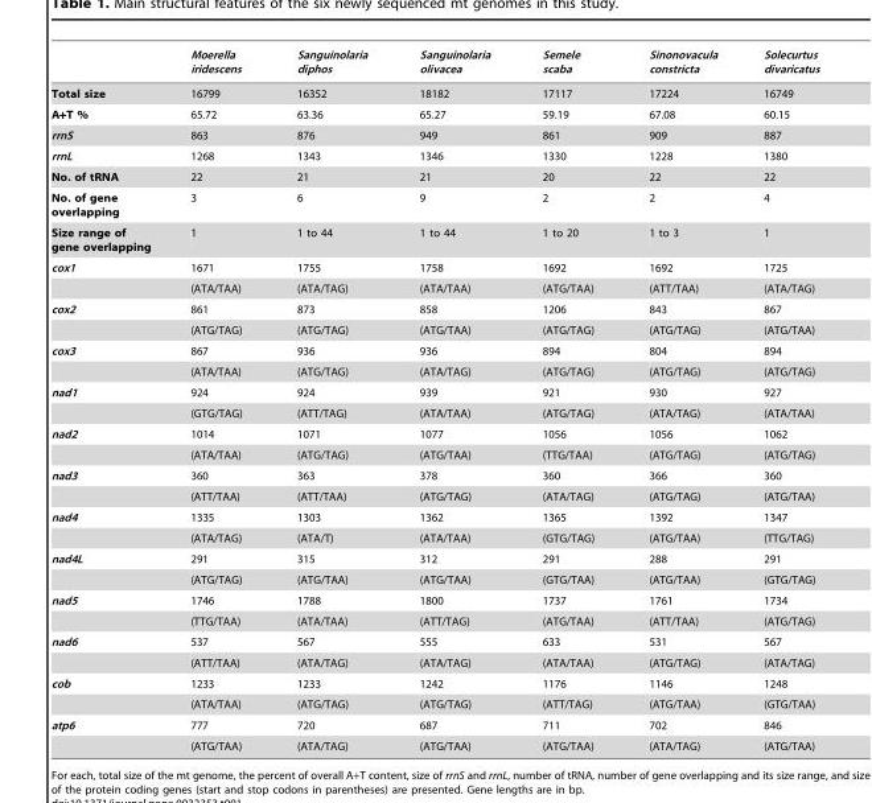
<table><thead><tr><td></td><td>Moerella iridescens</td><td>Sanguinolaria diphos</td><td>Sanguinolaria olivacea</td><td>Semele scaba</td><td>Sinonovacula constricta</td><td>Solecurtus divaricatus</td></tr></thead><tbody><tr><td>Total size</td><td>16799</td><td>16352</td><td>18182</td><td>17117</td><td>17224</td><td>16749</td></tr><tr><td>A+T %</td><td>65.72</td><td>63.36</td><td>65.27</td><td>59.19</td><td>67.08</td><td>60.15</td></tr><tr><td>rrnS</td><td>863</td><td>876</td><td>949</td><td>861</td><td>909</td><td>887</td></tr><tr><td>rrnL</td><td>1268</td><td>1343</td><td>1346</td><td>1330</td><td>1228</td><td>1380</td></tr><tr><td>No. of tRNA</td><td>22</td><td>21</td><td>21</td><td>20</td><td>22</td><td>22</td></tr><tr><td>No. of gene overlapping</td><td>3</td><td>6</td><td>9</td><td>2</td><td>2</td><td>4</td></tr><tr><td>Size range of gene overlapping</td><td>1</td><td>1 to 44</td><td>1 to 44</td><td>1 to 20</td><td>1 to 3</td><td>1</td></tr><tr><td rowspan="2">cox1</td><td>1671</td><td>1755</td><td>1758</td><td>1692</td><td>1692</td><td>1725</td></tr><tr><td>(ATA/TAA)</td><td>(ATA/TAG)</td><td>(ATA/TAA)</td><td>(ATG/TAA)</td><td>(ATT/TAA)</td><td>(ATA/TAG)</td></tr><tr><td rowspan="2">cox2</td><td>861</td><td>873</td><td>858</td><td>1206</td><td>843</td><td>867</td></tr><tr><td>(ATG/TAG)</td><td>(ATG/TAG)</td><td>(ATG/TAA)</td><td>(ATG/TAG)</td><td>(ATG/TAG)</td><td>(ATG/TAA)</td></tr><tr><td rowspan="2">cox3</td><td>867</td><td>936</td><td>936</td><td>894</td><td>804</td><td>894</td></tr><tr><td>(ATA/TAA)</td><td>(ATG/TAG)</td><td>(ATA/TAG)</td><td>(ATG/TAG)</td><td>(ATG/TAG)</td><td>(ATG/TAG)</td></tr><tr><td rowspan="2">nad1</td><td>924</td><td>924</td><td>939</td><td>921</td><td>930</td><td>927</td></tr><tr><td>(GTG/TAG)</td><td>(ATT/TAG)</td><td>(ATA/TAA)</td><td>(ATG/TAG)</td><td>(ATA/TAG)</td><td>(ATA/TAA)</td></tr><tr><td rowspan="2">nad2</td><td>1014</td><td>1071</td><td>1077</td><td>1056</td><td>1056</td><td>1062</td></tr><tr><td>(ATA/TAA)</td><td>(ATG/TAG)</td><td>(ATG/TAA)</td><td>(TTG/TAA)</td><td>(ATG/TAG)</td><td>(ATG/TAG)</td></tr><tr><td rowspan="2">nad3</td><td>360</td><td>363</td><td>378</td><td>360</td><td>366</td><td>360</td></tr><tr><td>(ATT/TAA)</td><td>(ATT/TAA)</td><td>(ATG/TAG)</td><td>(ATA/TAG)</td><td>(ATG/TAG)</td><td>(ATG/TAA)</td></tr><tr><td rowspan="2">nad4</td><td>1335</td><td>1303</td><td>1362</td><td>1365</td><td>1392</td><td>1347</td></tr><tr><td>(ATA/TAG)</td><td>(ATA/T)</td><td>(ATA/TAA)</td><td>(GTG/TAG)</td><td>(ATG/TAA)</td><td>(TTG/TAG)</td></tr><tr><td rowspan="2">nad4L</td><td>291</td><td>315</td><td>312</td><td>291</td><td>288</td><td>291</td></tr><tr><td>(ATG/TAG)</td><td>(ATG/TAA)</td><td>(ATG/TAA)</td><td>(GTG/TAA)</td><td>(ATG/TAA)</td><td>(GTG/TAG)</td></tr><tr><td rowspan="2">nad5</td><td>1746</td><td>1788</td><td>1800</td><td>1737</td><td>1761</td><td>1734</td></tr><tr><td>(TTG/TAA)</td><td>(ATA/TAA)</td><td>(ATT/TAG)</td><td>(ATG/TAA)</td><td>(ATT/TAA)</td><td>(ATG/TAG)</td></tr><tr><td rowspan="2">nad6</td><td>537</td><td>567</td><td>555</td><td>633</td><td>531</td><td>567</td></tr><tr><td>(ATT/TAA)</td><td>(ATA/TAG)</td><td>(ATA/TAG)</td><td>(ATA/TAA)</td><td>(ATG/TAG)</td><td>(ATA/TAG)</td></tr><tr><td rowspan="2">cob</td><td>1233</td><td>1233</td><td>1242</td><td>1176</td><td>1146</td><td>1248</td></tr><tr><td>(ATA/TAA)</td><td>(ATG/TAG)</td><td>(ATG/TAG)</td><td>(ATT/TAG)</td><td>(ATG/TAA)</td><td>(GTG/TAA)</td></tr><tr><td rowspan="2">atp6</td><td>777</td><td>720</td><td>687</td><td>711</td><td>702</td><td>846</td></tr><tr><td>(ATG/TAA)</td><td>(ATA/TAG)</td><td>(ATG/TAA)</td><td>(ATG/TAA)</td><td>(ATA/TAG)</td><td>(ATG/TAA)</td></tr></tbody></table>